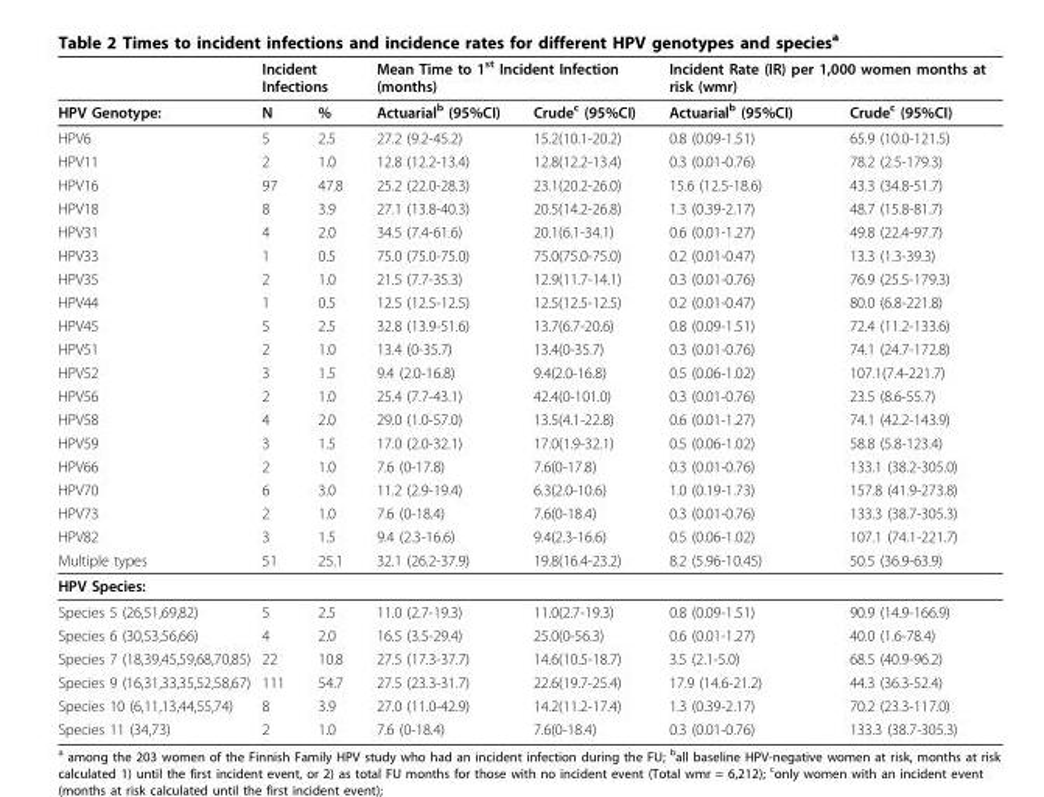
<table><thead><tr><td rowspan="2">HPV Genotype:</td><td colspan="2">Incident Infections</td><td colspan="2">Mean Time to 1<sup>st</sup> Incident Infection (months)</td><td colspan="2">Incident Rate (IR) per 1,000 women months at risk (wmr)</td></tr><tr><td>N</td><td>%</td><td>Actuarial<sup>b</sup> (95%CI)</td><td>Crude<sup>c</sup> (95%CI)</td><td>Actuarial<sup>b</sup> (95%CI)</td><td>Crude<sup>c</sup> (95%CI)</td></tr></thead><tbody><tr><td>HPV6</td><td>5</td><td>2.5</td><td>27.2 (9.2-45.2)</td><td>15.2(10.1-20.2)</td><td>0.8 (0.09-1.51)</td><td>65.9 (10.0-121.5)</td></tr><tr><td>HPV11</td><td>2</td><td>1.0</td><td>12.8 (12.2-13.4)</td><td>12.8(12.2-13.4)</td><td>0.3 (0.01-0.76)</td><td>78.2 (2.5-179.3)</td></tr><tr><td>HPV16</td><td>97</td><td>47.8</td><td>25.2 (22.0-28.3)</td><td>23.1(20.2-26.0)</td><td>15.6 (12.5-18.6)</td><td>43.3 (34.8-51.7)</td></tr><tr><td>HPV18</td><td>8</td><td>3.9</td><td>27.1 (13.8-40.3)</td><td>20.5(14.2-26.8)</td><td>1.3 (0.39-2.17)</td><td>48.7 (15.8-81.7)</td></tr><tr><td>HPV31</td><td>4</td><td>2.0</td><td>34.5 (7.4-61.6)</td><td>20.1(6.1-34.1)</td><td>0.6 (0.01-1.27)</td><td>49.8 (22.4-97.7)</td></tr><tr><td>HPV33</td><td>1</td><td>0.5</td><td>75.0 (75.0-75.0)</td><td>75.0(75.0-75.0)</td><td>0.2 (0.01-0.47)</td><td>13.3 (1.3-39.3)</td></tr><tr><td>HPV35</td><td>2</td><td>1.0</td><td>21.5 (7.7-35.3)</td><td>12.9(11.7-14.1)</td><td>0.3 (0.01-0.76)</td><td>76.9 (25.5-179.3)</td></tr><tr><td>HPV44</td><td>1</td><td>0.5</td><td>12.5 (12.5-12.5)</td><td>12.5(12.5-12.5)</td><td>0.2 (0.01-0.47)</td><td>80.0 (6.8-221.8)</td></tr><tr><td>HPV45</td><td>5</td><td>2.5</td><td>32.8 (13.9-51.6)</td><td>13.7(6.7-20.6)</td><td>0.8 (0.09-1.51)</td><td>72.4 (11.2-133.6)</td></tr><tr><td>HPV51</td><td>2</td><td>1.0</td><td>13.4 (0-35.7)</td><td>13.4(0-35.7)</td><td>0.3 (0.01-0.76)</td><td>74.1 (24.7-172.8)</td></tr><tr><td>HPV52</td><td>3</td><td>1.5</td><td>9.4 (2.0-16.8)</td><td>9.4(2.0-16.8)</td><td>0.5 (0.06-1.02)</td><td>107.1(7.4-221.7)</td></tr><tr><td>HPV56</td><td>2</td><td>1.0</td><td>25.4 (7.7-43.1)</td><td>42.4(0-101.0)</td><td>0.3 (0.01-0.76)</td><td>23.5 (8.6-55.7)</td></tr><tr><td>HPV58</td><td>4</td><td>2.0</td><td>29.0 (1.0-57.0)</td><td>13.5(4.1-22.8)</td><td>0.6 (0.01-1.27)</td><td>74.1 (42.2-143.9)</td></tr><tr><td>HPV59</td><td>3</td><td>1.5</td><td>17.0 (2.0-32.1)</td><td>17.0(1.9-32.1)</td><td>0.5 (0.06-1.02)</td><td>58.8 (5.8-123.4)</td></tr><tr><td>HPV66</td><td>2</td><td>1.0</td><td>7.6 (0-17.8)</td><td>7.6(0-17.8)</td><td>0.3 (0.01-0.76)</td><td>133.1 (38.2-305.0)</td></tr><tr><td>HPV70</td><td>6</td><td>3.0</td><td>11.2 (2.9-19.4)</td><td>6.3(2.0-10.6)</td><td>1.0 (0.19-1.73)</td><td>157.8 (41.9-273.8)</td></tr><tr><td>HPV73</td><td>2</td><td>1.0</td><td>7.6 (0-18.4)</td><td>7.6(0-18.4)</td><td>0.3 (0.01-0.76)</td><td>133.3 (38.7-305.3)</td></tr><tr><td>HPV82</td><td>3</td><td>1.5</td><td>9.4 (2.3-16.6)</td><td>9.4(2.3-16.6)</td><td>0.5 (0.06-1.02)</td><td>107.1 (74.1-221.7)</td></tr><tr><td>Multiple types</td><td>51</td><td>25.1</td><td>32.1 (26.2-37.9)</td><td>19.8(16.4-23.2)</td><td>8.2 (5.96-10.45)</td><td>50.5 (36.9-63.9)</td></tr><tr><td colspan="7">HPV Species:</td></tr><tr><td>Species 5 (26,51,69,82)</td><td>5</td><td>2.5</td><td>11.0 (2.7-19.3)</td><td>11.0(2.7-19.3)</td><td>0.8 (0.09-1.51)</td><td>90.9 (14.9-166.9)</td></tr><tr><td>Species 6 (30,53,56,66)</td><td>4</td><td>2.0</td><td>16.5 (3.5-29.4)</td><td>25.0(0-56.3)</td><td>0.6 (0.01-1.27)</td><td>40.0 (1.6-78.4)</td></tr><tr><td>Species 7 (18,39,45,59,68,70,85)</td><td>22</td><td>10.8</td><td>27.5 (17.3-37.7)</td><td>14.6(10.5-18.7)</td><td>3.5 (2.1-5.0)</td><td>68.5 (40.9-96.2)</td></tr><tr><td>Species 9 (16,31,33,35,52,58,67)</td><td>111</td><td>54.7</td><td>27.5 (23.3-31.7)</td><td>22.6(19.7-25.4)</td><td>17.9 (14.6-21.2)</td><td>44.3 (36.3-52.4)</td></tr><tr><td>Species 10 (6,11,13,44,55,74)</td><td>8</td><td>3.9</td><td>27.0 (11.0-42.9)</td><td>14.2(11.2-17.4)</td><td>1.3 (0.39-2.17)</td><td>70.2 (23.3-117.0)</td></tr><tr><td>Species 11 (34,73)</td><td>2</td><td>1.0</td><td>7.6 (0-18.4)</td><td>7.6(0-18.4)</td><td>0.3 (0.01-0.76)</td><td>133.3 (38.7-305.3)</td></tr></tbody></table>